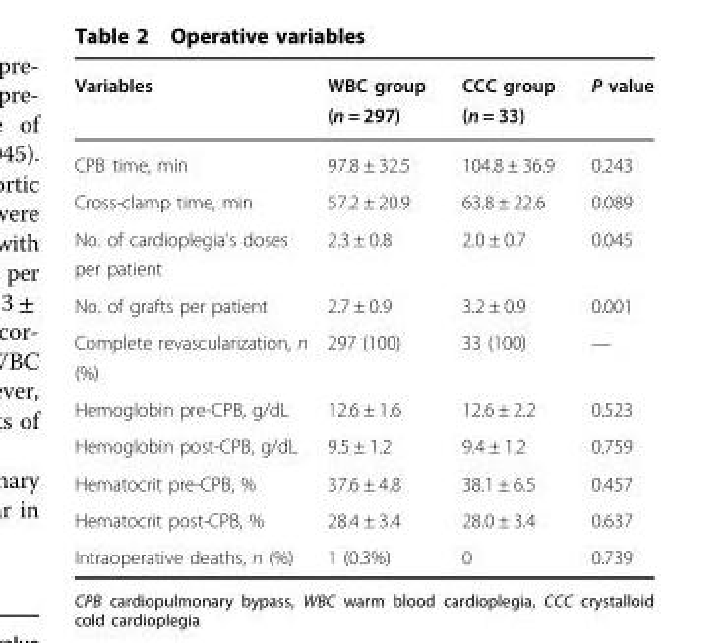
<table><thead><tr><td>Variables</td><td>WBC group (n = 297)</td><td>CCC group (n = 33)</td><td>P value</td></tr></thead><tbody><tr><td>CPB time, min</td><td>97.8 ± 32.5</td><td>104.8 ± 36.9</td><td>0.243</td></tr><tr><td>Cross-clamp time, min</td><td>57.2 ± 20.9</td><td>63.8 ± 22.6</td><td>0.089</td></tr><tr><td>No. of cardioplegia’s doses per patient</td><td>2.3 ± 0.8</td><td>2.0 ± 0.7</td><td>0.045</td></tr><tr><td>No. of grafts per patient</td><td>2.7 ± 0.9</td><td>3.2 ± 0.9</td><td>0.001</td></tr><tr><td>Complete revascularization, n (%)</td><td>297 (100)</td><td>33 (100)</td><td>—</td></tr><tr><td>Hemoglobin pre-CPB, g/dL</td><td>12.6 ± 1.6</td><td>12.6 ± 2.2</td><td>0.523</td></tr><tr><td>Hemoglobin post-CPB, g/dL</td><td>9.5 ± 1.2</td><td>9.4 ± 1.2</td><td>0.759</td></tr><tr><td>Hematocrit pre-CPB, %</td><td>37.6 ± 4.8</td><td>38.1 ± 6.5</td><td>0.457</td></tr><tr><td>Hematocrit post-CPB, %</td><td>28.4 ± 3.4</td><td>28.0 ± 3.4</td><td>0.637</td></tr><tr><td>Intraoperative deaths, n (%)</td><td>1 (0.3%)</td><td>0</td><td>0.739</td></tr></tbody></table>